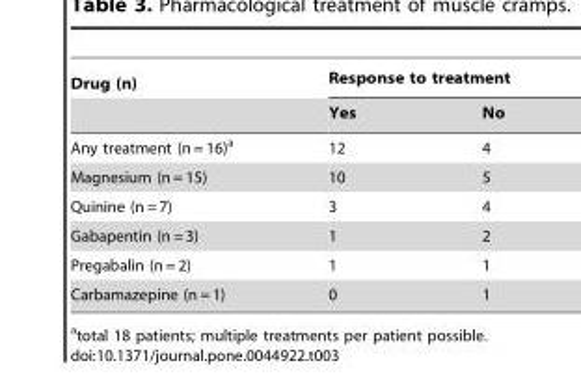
<table><thead><tr><td rowspan="2">Drug (n)</td><td colspan="2">Response to treatment</td></tr><tr><td>Yes</td><td>No</td></tr></thead><tbody><tr><td>Any treatment (n = 16)<sup>a</sup></td><td>12</td><td>4</td></tr><tr><td>Magnesium (n = 15)</td><td>10</td><td>5</td></tr><tr><td>Quinine (n = 7)</td><td>3</td><td>4</td></tr><tr><td>Gabapentin (n = 3)</td><td>1</td><td>2</td></tr><tr><td>Pregabalin (n = 2)</td><td>1</td><td>1</td></tr><tr><td>Carbamazepine (n = 1)</td><td>0</td><td>1</td></tr></tbody></table>